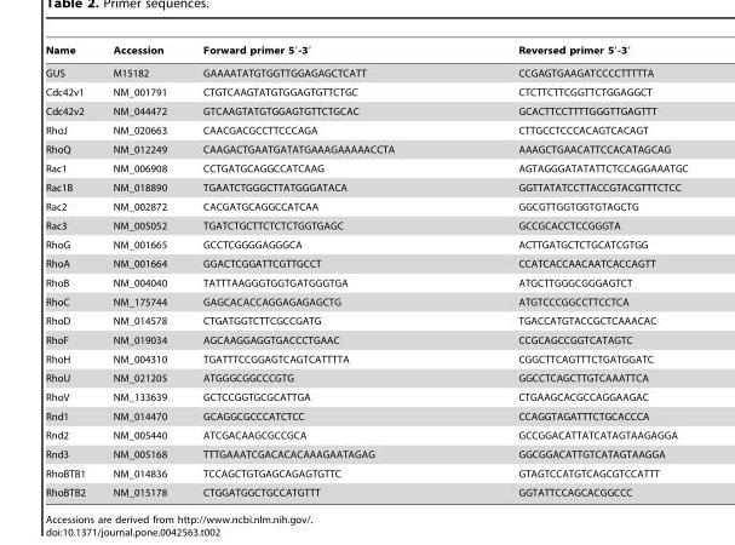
<table><thead><tr><td>Name</td><td>Accession</td><td>Forward primer 5′-3′</td><td>Reversed primer 5′-3′</td></tr></thead><tbody><tr><td>GUS</td><td>M15182</td><td>GAAAATATGTGGTTGGAGAGCTCATT</td><td>CCGAGTGAAGATCCCCTTTTTA</td></tr><tr><td>Cdc42v1</td><td>NM_001791</td><td>CTGTCAAGTATGTGGAGTGTTCTGC</td><td>CTCTTCTTCGGTTCTGGAGGCT</td></tr><tr><td>Cdc42v2</td><td>NM_044472</td><td>GTCAAGTATGTGGAGTGTTCTGCAC</td><td>GCACTTCCTTTTGGGTTGAGTTT</td></tr><tr><td>RhoJ</td><td>NM_020663</td><td>CAACGACGCCTTCCCAGA</td><td>CTTGCCTCCCACAGTCACAGT</td></tr><tr><td>RhoQ</td><td>NM_012249</td><td>CAAGACTGAATGATATGAAAGAAAAACCTA</td><td>AAAGCTGAACATTCCACATAGCAG</td></tr><tr><td>Rac1</td><td>NM_006908</td><td>CCTGATGCAGGCCATCAAG</td><td>AGTAGGGATATATTCTCCAGGAAATGC</td></tr><tr><td>Rac1B</td><td>NM_018890</td><td>TGAATCTGGGCTTATGGGATACA</td><td>GGTTATATCCTTACCGTACGTTTCTCC</td></tr><tr><td>Rac2</td><td>NM_002872</td><td>CACGATGCAGGCCATCAA</td><td>GGCGTTGGTGGTGTAGCTG</td></tr><tr><td>Rac3</td><td>NM_005052</td><td>TGATCTGCTTCTCTCTGGTGAGC</td><td>GCCGCACCTCCGGGTA</td></tr><tr><td>RhoG</td><td>NM_001665</td><td>GCCTCGGGGAGGGCA</td><td>ACTTGATGCTCTGCATCGTGG</td></tr><tr><td>RhoA</td><td>NM_001664</td><td>GGACTCGGATTCGTTGCCT</td><td>CCATCACCAACAATCACCAGTT</td></tr><tr><td>RhoB</td><td>NM_004040</td><td>TATTTAAGGGTGGTGATGGGTGA</td><td>ATGCTTGGGCGGGAGTCT</td></tr><tr><td>RhoC</td><td>NM_175744</td><td>GAGCACACCAGGAGAGAGCTG</td><td>ATGTCCCGGCCTTCCTCA</td></tr><tr><td>RhoD</td><td>NM_014578</td><td>CTGATGGTCTTCGCCGATG</td><td>TGACCATGTACCGCTCAAACAC</td></tr><tr><td>RhoF</td><td>NM_019034</td><td>AGCAAGGAGGTGACCCTGAAC</td><td>CCGCAGCCGGTCATAGTC</td></tr><tr><td>RhoH</td><td>NM_004310</td><td>TGATTTCCGGAGTCAGTCATTTTA</td><td>CGGCTTCAGTTTCTGATGGATC</td></tr><tr><td>RhoU</td><td>NM_021205</td><td>ATGGGCGGCCCGTG</td><td>GGCCTCAGCTTGTCAAATTCA</td></tr><tr><td>RhoV</td><td>NM_133639</td><td>GCTCCGGTGCGCATTGA</td><td>CTGAAGCACGCCAGGAAGAC</td></tr><tr><td>Rnd1</td><td>NM_014470</td><td>GCAGGCGCCCATCTCC</td><td>CCAGGTAGATTTCTGCACCCA</td></tr><tr><td>Rnd2</td><td>NM_005440</td><td>ATCGACAAGCGCCGCA</td><td>GCCGGACATTATCATAGTAAGAGGA</td></tr><tr><td>Rnd3</td><td>NM_005168</td><td>TTTGAAATCGACACACAAAGAATAGAG</td><td>GGCGGACATTGTCATAGTAAGGA</td></tr><tr><td>RhoBTB1</td><td>NM_014836</td><td>TCCAGCTGTGAGCAGAGTGTTC</td><td>GTAGTCCATGTCAGCGTCCATTT</td></tr><tr><td>RhoBTB2</td><td>NM_015178</td><td>CTGGATGGCTGCCATGTTT</td><td>GGTATTCCAGCACGGCCC</td></tr></tbody></table>